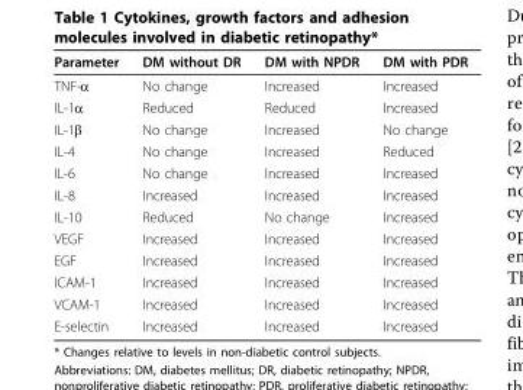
<table><thead><tr><td>Parameter</td><td>DM without DR</td><td>DM with NPDR</td><td>DM with PDR</td></tr></thead><tbody><tr><td>TNF-α</td><td>No change</td><td>Increased</td><td>Increased</td></tr><tr><td>IL-1α</td><td>Reduced</td><td>Reduced</td><td>Increased</td></tr><tr><td>IL-1β</td><td>No change</td><td>Increased</td><td>No change</td></tr><tr><td>IL-4</td><td>No change</td><td>Increased</td><td>Reduced</td></tr><tr><td>IL-6</td><td>No change</td><td>Increased</td><td>Increased</td></tr><tr><td>IL-8</td><td>Increased</td><td>Increased</td><td>Increased</td></tr><tr><td>IL-10</td><td>Reduced</td><td>No change</td><td>Increased</td></tr><tr><td>VEGF</td><td>Increased</td><td>Increased</td><td>Increased</td></tr><tr><td>EGF</td><td>Increased</td><td>Increased</td><td>Increased</td></tr><tr><td>ICAM-1</td><td>Increased</td><td>Increased</td><td>Increased</td></tr><tr><td>VCAM-1</td><td>Increased</td><td>Increased</td><td>Increased</td></tr><tr><td>E-selectin</td><td>Increased</td><td>Increased</td><td>Increased</td></tr></tbody></table>